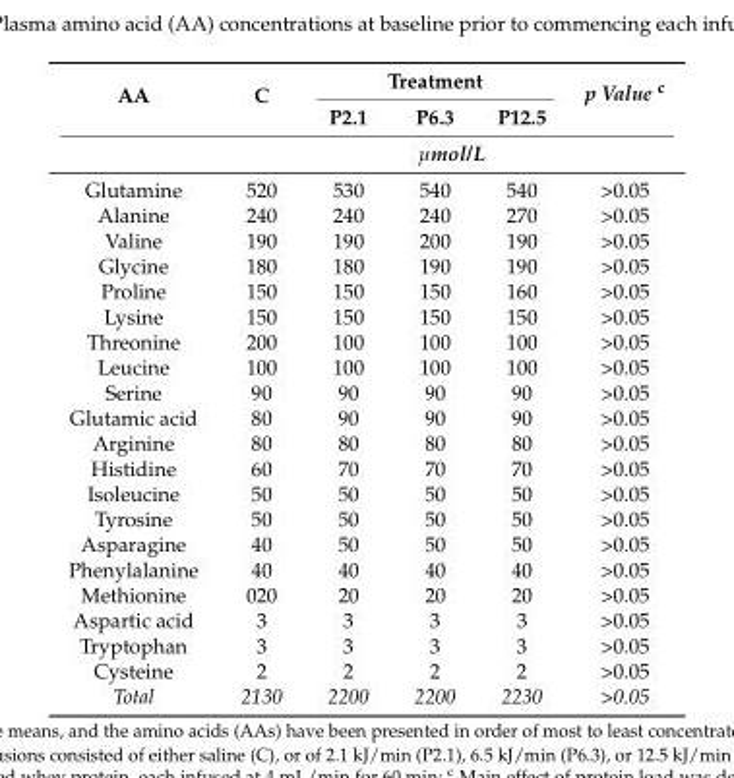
<table><thead><tr><td rowspan="3">AA</td><td rowspan="2">C</td><td colspan="3">Treatment</td><td rowspan="2">p Value <sup>c</sup></td></tr><tr><td>P2.1</td><td>P6.3</td><td>P12.5</td></tr><tr><td colspan="5">µmol/L</td></tr></thead><tbody><tr><td>Glutamine</td><td>520</td><td>530</td><td>540</td><td>540</td><td>&gt;0.05</td></tr><tr><td>Alanine</td><td>240</td><td>240</td><td>240</td><td>270</td><td>&gt;0.05</td></tr><tr><td>Valine</td><td>190</td><td>190</td><td>200</td><td>190</td><td>&gt;0.05</td></tr><tr><td>Glycine</td><td>180</td><td>180</td><td>190</td><td>190</td><td>&gt;0.05</td></tr><tr><td>Proline</td><td>150</td><td>150</td><td>150</td><td>160</td><td>&gt;0.05</td></tr><tr><td>Lysine</td><td>150</td><td>150</td><td>150</td><td>150</td><td>&gt;0.05</td></tr><tr><td>Threonine</td><td>200</td><td>100</td><td>100</td><td>100</td><td>&gt;0.05</td></tr><tr><td>Leucine</td><td>100</td><td>100</td><td>100</td><td>100</td><td>&gt;0.05</td></tr><tr><td>Serine</td><td>90</td><td>90</td><td>90</td><td>90</td><td>&gt;0.05</td></tr><tr><td>Glutamic acid</td><td>80</td><td>90</td><td>90</td><td>90</td><td>&gt;0.05</td></tr><tr><td>Arginine</td><td>80</td><td>80</td><td>80</td><td>80</td><td>&gt;0.05</td></tr><tr><td>Histidine</td><td>60</td><td>70</td><td>70</td><td>70</td><td>&gt;0.05</td></tr><tr><td>Isoleucine</td><td>50</td><td>50</td><td>50</td><td>50</td><td>&gt;0.05</td></tr><tr><td>Tyrosine</td><td>50</td><td>50</td><td>50</td><td>50</td><td>&gt;0.05</td></tr><tr><td>Asparagine</td><td>40</td><td>50</td><td>50</td><td>50</td><td>&gt;0.05</td></tr><tr><td>Phenylalanine</td><td>40</td><td>40</td><td>40</td><td>40</td><td>&gt;0.05</td></tr><tr><td>Methionine</td><td>020</td><td>20</td><td>20</td><td>20</td><td>&gt;0.05</td></tr><tr><td>Aspartic acid</td><td>3</td><td>3</td><td>3</td><td>3</td><td>&gt;0.05</td></tr><tr><td>Tryptophan</td><td>3</td><td>3</td><td>3</td><td>3</td><td>&gt;0.05</td></tr><tr><td>Cysteine</td><td>2</td><td>2</td><td>2</td><td>2</td><td>&gt;0.05</td></tr><tr><td>Total</td><td>2130</td><td>2200</td><td>2200</td><td>2230</td><td>&gt;0.05</td></tr></tbody></table>